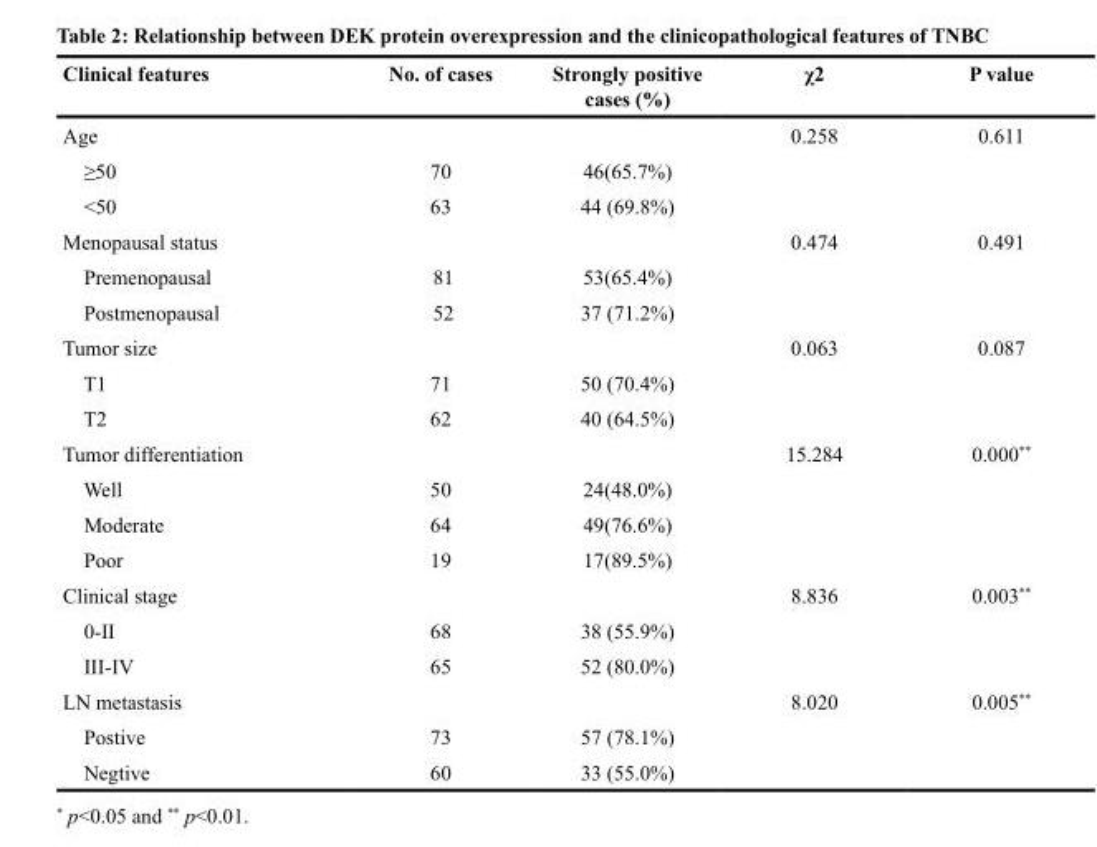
<table><thead><tr><td>Clinical features</td><td>No. of cases</td><td>Strongly positive cases (%)</td><td>χ<sup>2</sup></td><td>P value</td></tr></thead><tbody><tr><td>Age</td><td></td><td></td><td>0.258</td><td>0.611</td></tr><tr><td>≥50</td><td>70</td><td>46(65.7%)</td><td></td><td></td></tr><tr><td>&lt;50</td><td>63</td><td>44 (69.8%)</td><td></td><td></td></tr><tr><td>Menopausal status</td><td></td><td></td><td>0.474</td><td>0.491</td></tr><tr><td>Premenopausal</td><td>81</td><td>53(65.4%)</td><td></td><td></td></tr><tr><td>Postmenopausal</td><td>52</td><td>37 (71.2%)</td><td></td><td></td></tr><tr><td>Tumor size</td><td></td><td></td><td>0.063</td><td>0.087</td></tr><tr><td>T1</td><td>71</td><td>50 (70.4%)</td><td></td><td></td></tr><tr><td>T2</td><td>62</td><td>40 (64.5%)</td><td></td><td></td></tr><tr><td>Tumor differentiation</td><td></td><td></td><td>15.284</td><td>0.000**</td></tr><tr><td>Well</td><td>50</td><td>24(48.0%)</td><td></td><td></td></tr><tr><td>Moderate</td><td>64</td><td>49(76.6%)</td><td></td><td></td></tr><tr><td>Poor</td><td>19</td><td>17(89.5%)</td><td></td><td></td></tr><tr><td>Clinical stage</td><td></td><td></td><td>8.836</td><td>0.003**</td></tr><tr><td>0-II</td><td>68</td><td>38 (55.9%)</td><td></td><td></td></tr><tr><td>III-IV</td><td>65</td><td>52 (80.0%)</td><td></td><td></td></tr><tr><td>LN metastasis</td><td></td><td></td><td>8.020</td><td>0.005**</td></tr><tr><td>Postive</td><td>73</td><td>57 (78.1%)</td><td></td><td></td></tr><tr><td>Negtive</td><td>60</td><td>33 (55.0%)</td><td></td><td></td></tr></tbody></table>